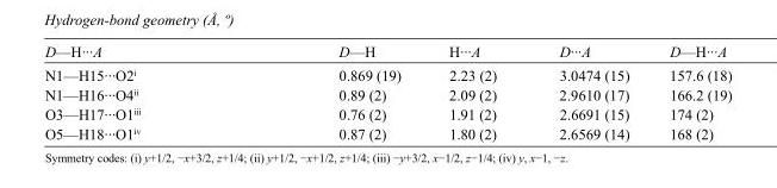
<table><tbody><tr><td>D—H···A</td><td>D—H</td><td>H···A</td><td>D···A</td><td>D—H···A</td></tr><tr><td>N1—H15···O2<sup>i</sup></td><td>0.869 (19)</td><td>2.23 (2)</td><td>3.0474 (15)</td><td>157.6 (18)</td></tr><tr><td>N1—H16···O4<sup>ii</sup></td><td>0.89 (2)</td><td>2.09 (2)</td><td>2.9610 (17)</td><td>166.2 (19)</td></tr><tr><td>O3—H17···O1<sup>iii</sup></td><td>0.76 (2)</td><td>1.91 (2)</td><td>2.6691 (15)</td><td>174 (2)</td></tr><tr><td>O5—H18···O1<sup>iv</sup></td><td>0.87 (2)</td><td>1.80 (2)</td><td>2.6569 (14)</td><td>168 (2)</td></tr></tbody></table>